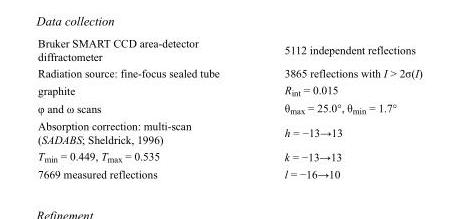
<table><tbody><tr><td>Bruker SMART CCD area-detector diffractometer</td><td>5112 independent reflections</td></tr><tr><td>Radiation source: fine-focus sealed tube</td><td>3865 reflections with I &gt; 2σ(I)</td></tr><tr><td>graphite</td><td>R<sub>int</sub> = 0.015</td></tr><tr><td>φ and ω scans</td><td>θ<sub>max</sub> = 25.0°, θ<sub>min</sub> = 1.7°</td></tr><tr><td>Absorption correction: multi-scan (SADABS; Sheldrick, 1996)</td><td>h = −13→13</td></tr><tr><td>T<sub>min</sub> = 0.449, T<sub>max</sub> = 0.535</td><td>k = −13→13</td></tr><tr><td>7669 measured reflections</td><td>l = −16→10</td></tr></tbody></table>